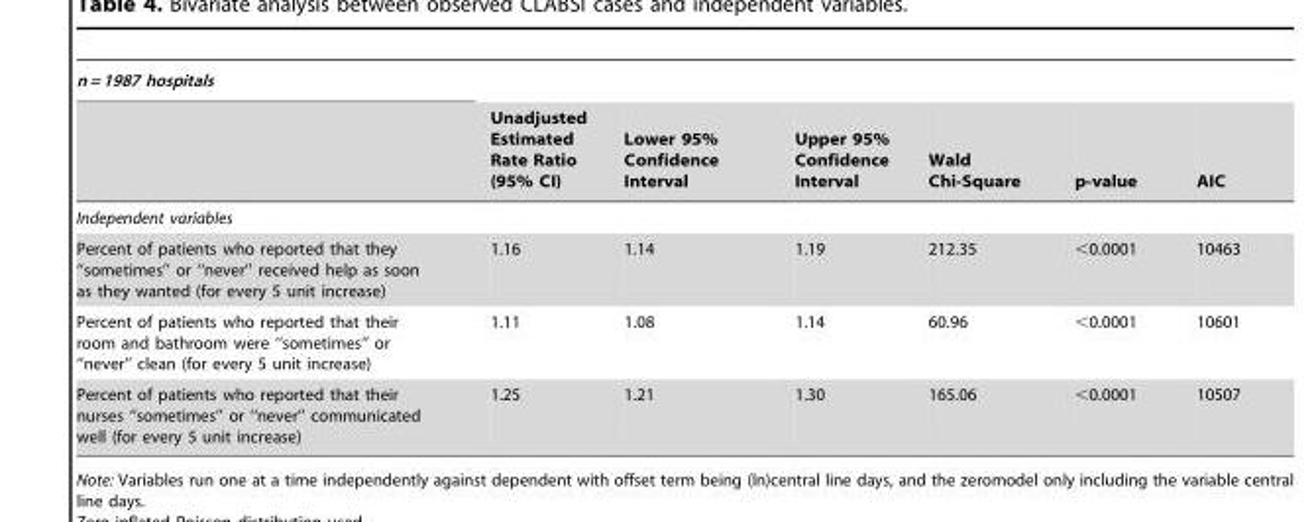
<table><thead><tr><td rowspan="2">n = 1987 hospitals</td><td rowspan="2">Unadjusted Estimated Rate Ratio (95% CI)</td><td rowspan="2">Lower 95% Confidence Interval</td><td rowspan="2">Upper 95% Confidence Interval</td><td rowspan="2">Wald Chi-Square</td><td rowspan="2">p-value</td><td rowspan="2">AIC</td></tr><tr></tr></thead><tbody><tr><td colspan="7">Independent variables</td></tr><tr><td>Percent of patients who reported that they ‘‘sometimes’’ or ‘‘never’’ received help as soon as they wanted (for every 5 unit increase)</td><td>1.16</td><td>1.14</td><td>1.19</td><td>212.35</td><td>&lt;0.0001</td><td>10463</td></tr><tr><td>Percent of patients who reported that their room and bathroom were ‘‘sometimes’’ or ‘‘never’’ clean (for every 5 unit increase)</td><td>1.11</td><td>1.08</td><td>1.14</td><td>60.96</td><td>&lt;0.0001</td><td>10601</td></tr><tr><td>Percent of patients who reported that their nurses ‘‘sometimes’’ or ‘‘never’’ communicated well (for every 5 unit increase)</td><td>1.25</td><td>1.21</td><td>1.30</td><td>165.06</td><td>&lt;0.0001</td><td>10507</td></tr></tbody></table>